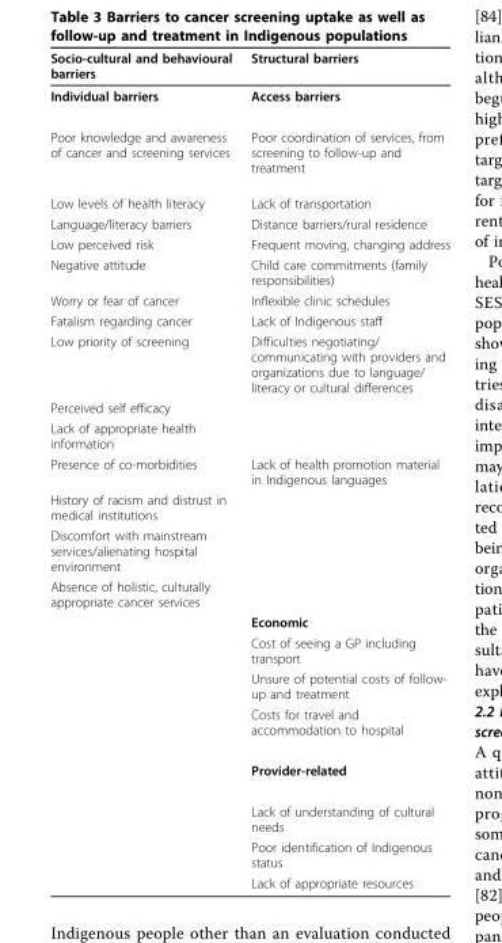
<table><thead><tr><td>Socio-cultural and behavioural barriers</td><td>Structural barriers</td></tr></thead><tbody><tr><td>Individual barriers</td><td>Access barriers</td></tr><tr><td>Poor knowledge and awareness of cancer and screening services</td><td>Poor coordination of services, from screening to follow-up and treatment</td></tr><tr><td>Low levels of health literacy</td><td>Lack of transportation</td></tr><tr><td>Language/literacy barriers</td><td>Distance barriers/rural residence</td></tr><tr><td>Low perceived risk</td><td>Frequent moving, changing address</td></tr><tr><td>Negative attitude</td><td>Child care commitments (family responsibilities)</td></tr><tr><td>Worry or fear of cancer</td><td>Inflexible clinic schedules</td></tr><tr><td>Fatalism regarding cancer</td><td>Lack of Indigenous staff</td></tr><tr><td>Low priority of screening</td><td>Difficulties negotiating/ communicating with providers and organizations due to language/ literacy or cultural differences</td></tr><tr><td colspan="2">Perceived self efficacy</td></tr><tr><td colspan="2">Lack of appropriate health information</td></tr><tr><td>Presence of co-morbidities</td><td>Lack of health promotion material in Indigenous languages</td></tr><tr><td colspan="2">History of racism and distrust in medical institutions</td></tr><tr><td colspan="2">Discomfort with mainstream services/alienating hospital environment</td></tr><tr><td colspan="2">Absence of holistic, culturally appropriate cancer services</td></tr><tr><td></td><td>Economic</td></tr><tr><td></td><td>Cost of seeing a GP including transport</td></tr><tr><td></td><td>Unsure of potential costs of follow- up and treatment</td></tr><tr><td></td><td>Costs for travel and accommodation to hospital</td></tr><tr><td></td><td>Provider-related</td></tr><tr><td></td><td>Lack of understanding of cultural needs</td></tr><tr><td></td><td>Poor identification of Indigenous status</td></tr><tr><td></td><td>Lack of appropriate resources</td></tr></tbody></table>